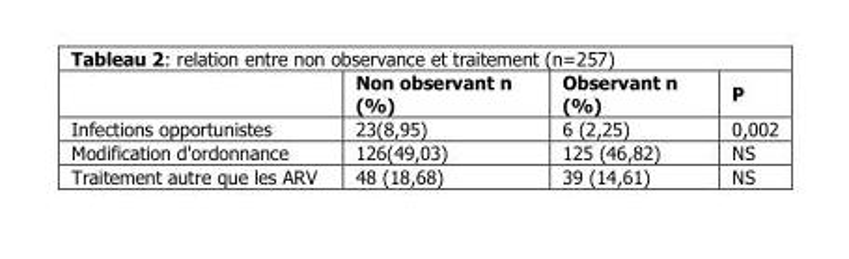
<table><thead><tr><td></td><td>Non observant n (%)</td><td>Observant n (%)</td><td>P</td></tr></thead><tbody><tr><td>Infections opportunistes</td><td>23(8,95)</td><td>6 (2,25)</td><td>0,002</td></tr><tr><td>Modification d&#x27;ordonnance</td><td>126(49,03)</td><td>125 (46,82)</td><td>NS</td></tr><tr><td>Traitement autre que les ARV</td><td>48 (18,68)</td><td>39 (14,61)</td><td>NS</td></tr></tbody></table>